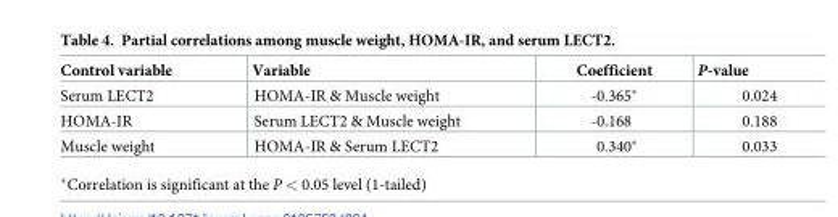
<table><thead><tr><td>Control variable</td><td>Variable</td><td>Coefficient</td><td>P-value</td></tr></thead><tbody><tr><td>Serum LECT2</td><td>HOMA-IR &amp; Muscle weight</td><td>-0.365*</td><td>0.024</td></tr><tr><td>HOMA-IR</td><td>Serum LECT2 &amp; Muscle weight</td><td>-0.168</td><td>0.188</td></tr><tr><td>Muscle weight</td><td>HOMA-IR &amp; Serum LECT2</td><td>0.340*</td><td>0.033</td></tr></tbody></table>